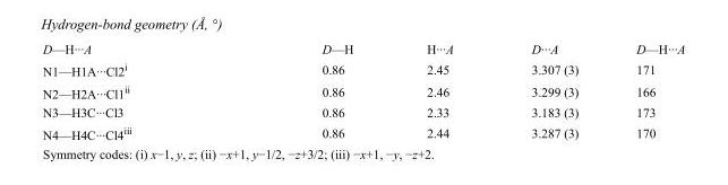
<table><tbody><tr><td>D—H···A</td><td>D—H</td><td>H···A</td><td>D···A</td><td>D—H···A</td></tr><tr><td>N1—H1A···Cl2<sup>i</sup></td><td>0.86</td><td>2.45</td><td>3.307 (3)</td><td>171</td></tr><tr><td>N2—H2A···Cl1<sup>ii</sup></td><td>0.86</td><td>2.46</td><td>3.299 (3)</td><td>166</td></tr><tr><td>N3—H3C···Cl3</td><td>0.86</td><td>2.33</td><td>3.183 (3)</td><td>173</td></tr><tr><td>N4—H4C···Cl4<sup>iii</sup></td><td>0.86</td><td>2.44</td><td>3.287 (3)</td><td>170</td></tr></tbody></table>